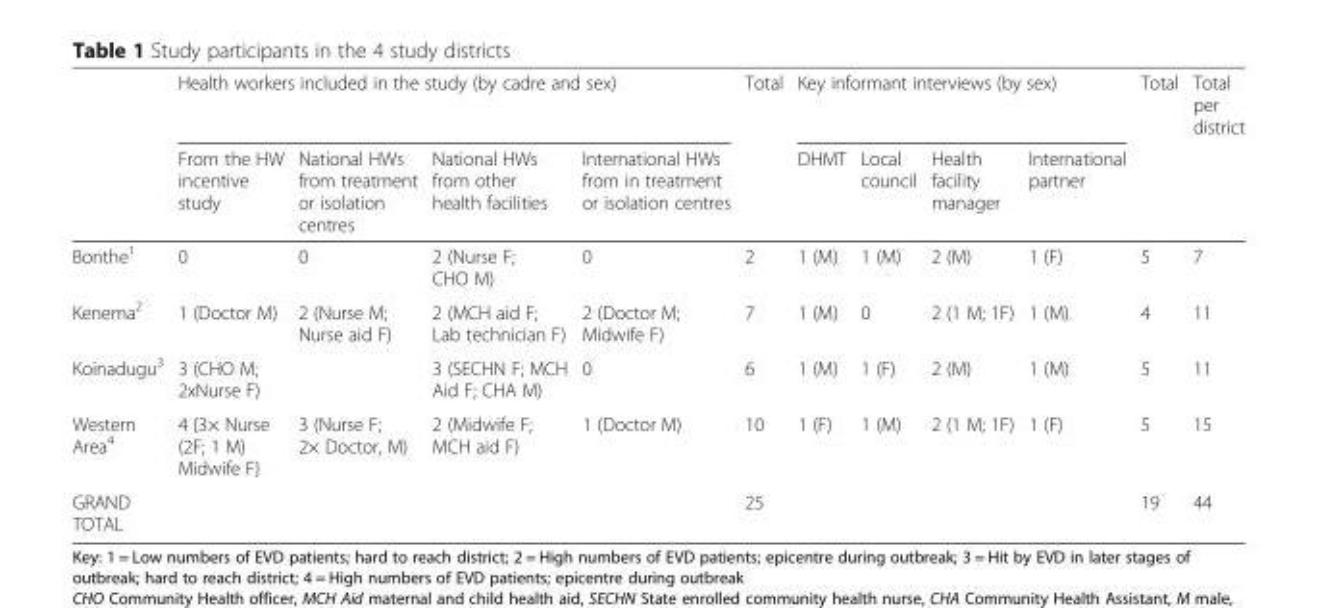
<table><thead><tr><td rowspan="2"></td><td colspan="4">Health workers included in the study (by cadre and sex)</td><td rowspan="2">Total</td><td colspan="4">Key informant interviews (by sex)</td><td rowspan="2">Total</td><td rowspan="2">Total per district</td></tr><tr><td>From the HW incentive study</td><td>National HWs from treatment or isolation centres</td><td>National HWs from other health facilities</td><td>International HWs from in treatment or isolation centres</td><td>DHMT</td><td>Local council</td><td>Health facility manager</td><td>International partner</td></tr></thead><tbody><tr><td>Bonthe<sup>1</sup></td><td>0</td><td>0</td><td>2 (Nurse F; CHO M)</td><td>0</td><td>2</td><td>1 (M)</td><td>1 (M)</td><td>2 (M)</td><td>1 (F)</td><td>5</td><td>7</td></tr><tr><td>Kenema<sup>2</sup></td><td>1 (Doctor M)</td><td>2 (Nurse M; Nurse aid F)</td><td>2 (MCH aid F; Lab technician F)</td><td>2 (Doctor M; Midwife F)</td><td>7</td><td>1 (M)</td><td>0</td><td>2 (1 M; 1F)</td><td>1 (M)</td><td>4</td><td>11</td></tr><tr><td>Koinadugu<sup>3</sup></td><td colspan="2">3 (CHO M; 2xNurse F)</td><td>3 (SECHN F; MCH Aid F; CHA M)</td><td>0</td><td>6</td><td>1 (M)</td><td>1 (F)</td><td>2 (M)</td><td>1 (M)</td><td>5</td><td>11</td></tr><tr><td>Western Area<sup>4</sup></td><td>4 {3× Nurse (2F; 1 M) Midwife F}</td><td>3 (Nurse F; 2× Doctor, M)</td><td>2 (Midwife F; MCH aid F)</td><td>1 (Doctor M)</td><td>10</td><td>1 (F)</td><td>1 (M)</td><td>2 (1 M; 1F)</td><td>1 (F)</td><td>5</td><td>15</td></tr><tr><td>GRAND TOTAL</td><td></td><td></td><td></td><td></td><td>25</td><td></td><td></td><td></td><td></td><td>19</td><td>44</td></tr></tbody></table>